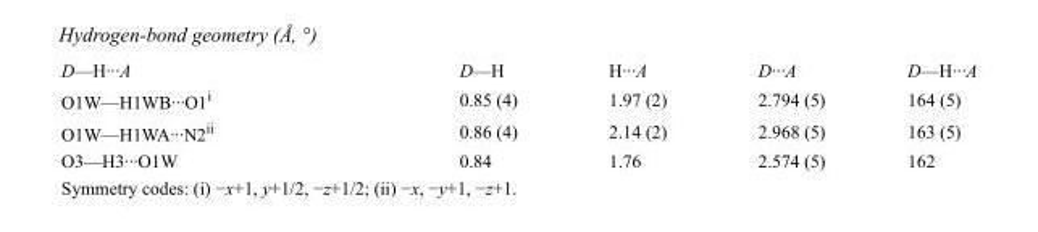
<table><tbody><tr><td>D—H···A</td><td>D—H</td><td>H···A</td><td>D···A</td><td>D—H···A</td></tr><tr><td>O1W—H1WB···O1<sup>i</sup></td><td>0.85 (4)</td><td>1.97 (2)</td><td>2.794 (5)</td><td>164 (5)</td></tr><tr><td>O1W—H1WA···N2<sup>ii</sup></td><td>0.86 (4)</td><td>2.14 (2)</td><td>2.968 (5)</td><td>163 (5)</td></tr><tr><td>O3—H3···O1W</td><td>0.84</td><td>1.76</td><td>2.574 (5)</td><td>162</td></tr></tbody></table>